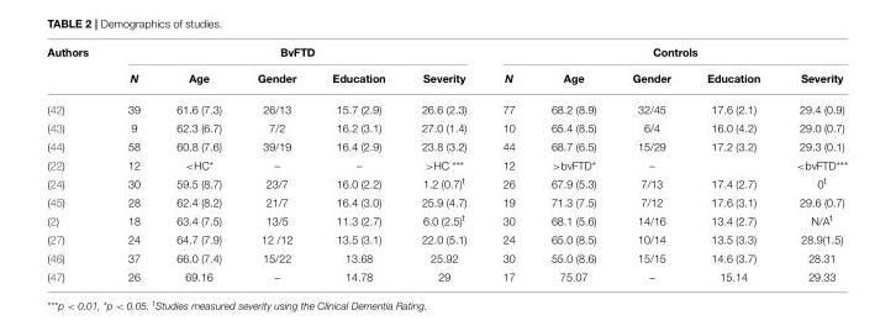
<table><thead><tr><td rowspan="2">Authors</td><td colspan="5">BvFTD</td><td colspan="5">Controls</td></tr><tr><td>N</td><td>Age</td><td>Gender</td><td>Education</td><td>Severity</td><td>N</td><td>Age</td><td>Gender</td><td>Education</td><td>Severity</td></tr></thead><tbody><tr><td>(42)</td><td>39</td><td>61.6 (7.3)</td><td>26/13</td><td>15.7 (2.9)</td><td>26.6 (2.3)</td><td>77</td><td>68.2 (8.9)</td><td>32/45</td><td>17.6 (2.1)</td><td>29.4 (0.9)</td></tr><tr><td>(43)</td><td>9</td><td>62.3 (6.7)</td><td>7/2</td><td>16.2 (3.1)</td><td>27.0 (1.4)</td><td>10</td><td>65.4 (8.5)</td><td>6/4</td><td>16.0 (4.2)</td><td>29.0 (0.7)</td></tr><tr><td>(44)</td><td>58</td><td>60.8 (7.6)</td><td>39/19</td><td>16.4 (2.9)</td><td>23.8 (3.2)</td><td>44</td><td>68.7 (6.5)</td><td>15/29</td><td>17.2 (3.2)</td><td>29.3 (0.1)</td></tr><tr><td>(22)</td><td>12</td><td>&lt;HC*</td><td>–</td><td>–</td><td>&gt;HC ***</td><td>12</td><td>&gt;bvFTD*</td><td>–</td><td></td><td>&lt;bvFTD***</td></tr><tr><td>(24)</td><td>30</td><td>59.5 (8.7)</td><td>23/7</td><td>16.0 (2.2)</td><td>1.2 (0.7)<sup>t</sup></td><td>26</td><td>67.9 (5.3)</td><td>7/13</td><td>17.4 (2.7)</td><td>0<sup>t</sup></td></tr><tr><td>(45)</td><td>28</td><td>62.4 (8.2)</td><td>21/7</td><td>16.4 (3.0)</td><td>25.9 (4.7)</td><td>19</td><td>71.3 (7.5)</td><td>7/12</td><td>17.6 (3.1)</td><td>29.6 (0.7)</td></tr><tr><td>(2)</td><td>18</td><td>63.4 (7.5)</td><td>13/5</td><td>11.3 (2.7)</td><td>6.0 (2.5)<sup>t</sup></td><td>30</td><td>68.1 (5.6)</td><td>14/16</td><td>13.4 (2.7)</td><td>N/A<sup>t</sup></td></tr><tr><td>(27)</td><td>24</td><td>64.7 (7.9)</td><td>12 /12</td><td>13.5 (3.1)</td><td>22.0 (5.1)</td><td>24</td><td>65.0 (8.5)</td><td>10/14</td><td>13.5 (3.3)</td><td>28.9(1.5)</td></tr><tr><td>(46)</td><td>37</td><td>66.0 (7.4)</td><td>15/22</td><td>13.68</td><td>25.92</td><td>30</td><td>55.0 (8.6)</td><td>15/15</td><td>14.6 (3.7)</td><td>28.31</td></tr><tr><td>(47)</td><td>26</td><td>69.16</td><td>–</td><td>14.78</td><td>29</td><td>17</td><td>75.07</td><td>–</td><td>15.14</td><td>29.33</td></tr></tbody></table>